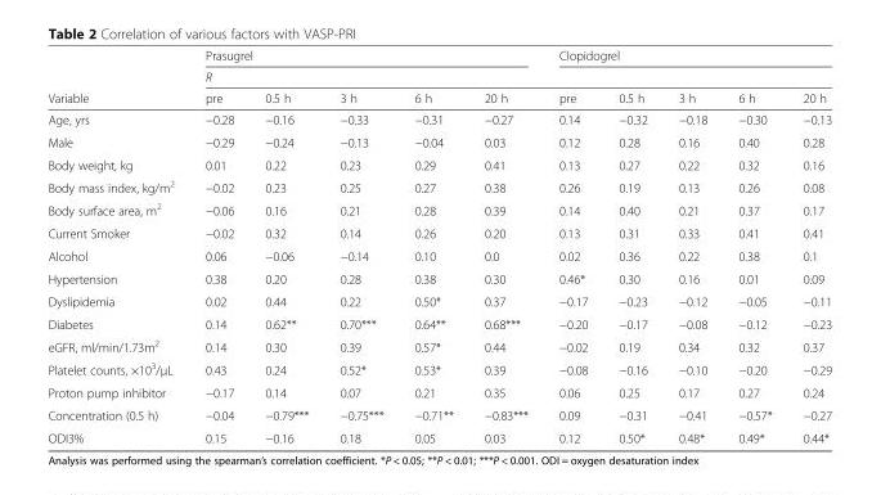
<table><thead><tr><td rowspan="3">Variable</td><td colspan="5">Prasugrel</td><td colspan="5">Clopidogrel</td></tr><tr><td colspan="10">R</td></tr><tr><td>pre</td><td>0.5 h</td><td>3 h</td><td>6 h</td><td>20 h</td><td>pre</td><td>0.5 h</td><td>3 h</td><td>6 h</td><td>20 h</td></tr></thead><tbody><tr><td>Age, yrs</td><td>−0.28</td><td>−0.16</td><td>−0.33</td><td>−0.31</td><td>−0.27</td><td>0.14</td><td>−0.32</td><td>−0.18</td><td>−0.30</td><td>−0.13</td></tr><tr><td>Male</td><td>−0.29</td><td>−0.24</td><td>−0.13</td><td>−0.04</td><td>0.03</td><td>0.12</td><td>0.28</td><td>0.16</td><td>0.40</td><td>0.28</td></tr><tr><td>Body weight, kg</td><td>0.01</td><td>0.22</td><td>0.23</td><td>0.29</td><td>0.41</td><td>0.13</td><td>0.27</td><td>0.22</td><td>0.32</td><td>0.16</td></tr><tr><td>Body mass index, kg/m<sup>2</sup></td><td>−0.02</td><td>0.23</td><td>0.25</td><td>0.27</td><td>0.38</td><td>0.26</td><td>0.19</td><td>0.13</td><td>0.26</td><td>0.08</td></tr><tr><td>Body surface area, m<sup>2</sup></td><td>−0.06</td><td>0.16</td><td>0.21</td><td>0.28</td><td>0.39</td><td>0.14</td><td>0.40</td><td>0.21</td><td>0.37</td><td>0.17</td></tr><tr><td>Current Smoker</td><td>−0.02</td><td>0.32</td><td>0.14</td><td>0.26</td><td>0.20</td><td>0.13</td><td>0.31</td><td>0.33</td><td>0.41</td><td>0.41</td></tr><tr><td>Alcohol</td><td>0.06</td><td>−0.06</td><td>−0.14</td><td>0.10</td><td>0.0</td><td>0.02</td><td>0.36</td><td>0.22</td><td>0.38</td><td>0.1</td></tr><tr><td>Hypertension</td><td>0.38</td><td>0.20</td><td>0.28</td><td>0.38</td><td>0.30</td><td>0.46*</td><td>0.30</td><td>0.16</td><td>0.01</td><td>0.09</td></tr><tr><td>Dyslipidemia</td><td>0.02</td><td>0.44</td><td>0.22</td><td>0.50*</td><td>0.37</td><td>−0.17</td><td>−0.23</td><td>−0.12</td><td>−0.05</td><td>−0.11</td></tr><tr><td>Diabetes</td><td>0.14</td><td>0.62**</td><td>0.70***</td><td>0.64**</td><td>0.68***</td><td>−0.20</td><td>−0.17</td><td>−0.08</td><td>−0.12</td><td>−0.23</td></tr><tr><td>eGFR, ml/min/1.73m<sup>2</sup></td><td>0.14</td><td>0.30</td><td>0.39</td><td>0.57*</td><td>0.44</td><td>−0.02</td><td>0.19</td><td>0.34</td><td>0.32</td><td>0.37</td></tr><tr><td>Platelet counts, ×10<sup>3</sup>/μL</td><td>0.43</td><td>0.24</td><td>0.52*</td><td>0.53*</td><td>0.39</td><td>−0.08</td><td>−0.16</td><td>−0.10</td><td>−0.20</td><td>−0.29</td></tr><tr><td>Proton pump inhibitor</td><td>−0.17</td><td>0.14</td><td>0.07</td><td>0.21</td><td>0.35</td><td>0.06</td><td>0.25</td><td>0.17</td><td>0.27</td><td>0.24</td></tr><tr><td>Concentration (0.5 h)</td><td>−0.04</td><td>−0.79***</td><td>−0.75***</td><td>−0.71**</td><td>−0.83***</td><td>0.09</td><td>−0.31</td><td>−0.41</td><td>−0.57*</td><td>−0.27</td></tr><tr><td>ODI3%</td><td>0.15</td><td>−0.16</td><td>0.18</td><td>0.05</td><td>0.03</td><td>0.12</td><td>0.50*</td><td>0.48*</td><td>0.49*</td><td>0.44*</td></tr></tbody></table>